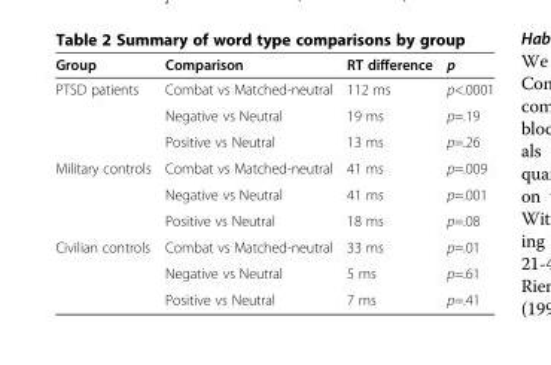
<table><thead><tr><td>Group</td><td>Comparison</td><td>RT difference</td><td>p</td></tr></thead><tbody><tr><td rowspan="3">PTSD patients</td><td>Combat vs Matched-neutral</td><td>112 ms</td><td>p&lt;.0001</td></tr><tr><td>Negative vs Neutral</td><td>19 ms</td><td>p=.19</td></tr><tr><td>Positive vs Neutral</td><td>13 ms</td><td>p=.26</td></tr><tr><td rowspan="3">Military controls</td><td>Combat vs Matched-neutral</td><td>41 ms</td><td>p=.009</td></tr><tr><td>Negative vs Neutral</td><td>41 ms</td><td>p=.001</td></tr><tr><td>Positive vs Neutral</td><td>18 ms</td><td>p=.08</td></tr><tr><td rowspan="3">Civilian controls</td><td>Combat vs Matched-neutral</td><td>33 ms</td><td>p=.01</td></tr><tr><td>Negative vs Neutral</td><td>5 ms</td><td>p=.61</td></tr><tr><td>Positive vs Neutral</td><td>7 ms</td><td>p=.41</td></tr></tbody></table>